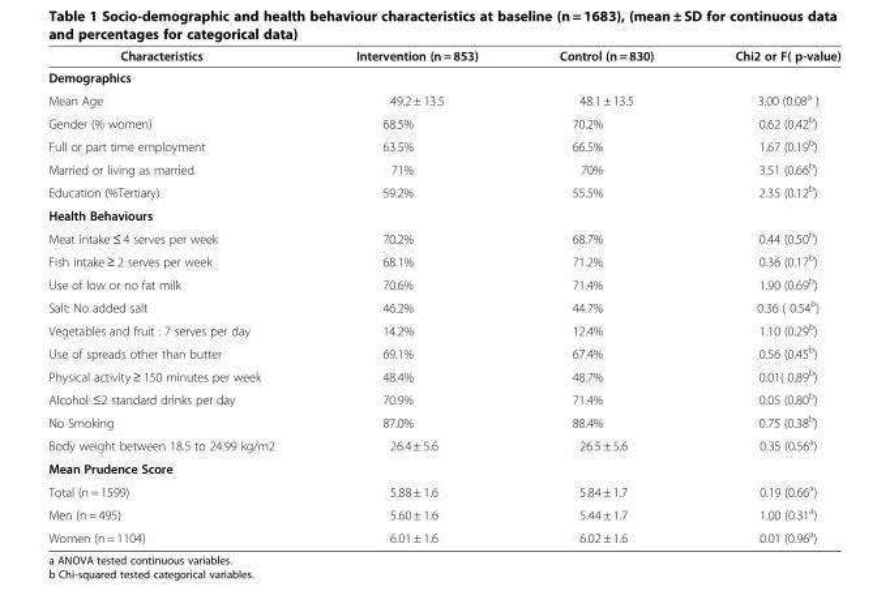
<table><thead><tr><td>Characteristics</td><td>Intervention (n = 853)</td><td>Control (n = 830)</td><td>Chi2 or F( p-value)</td></tr></thead><tbody><tr><td colspan="4">Demographics</td></tr><tr><td>Mean Age</td><td>49.2 ± 13.5</td><td>48.1 ± 13.5</td><td>3.00 (0.08<sup>a</sup> )</td></tr><tr><td>Gender (% women)</td><td>68.5%</td><td>70.2%</td><td>0.62 (0.42<sup>b</sup>)</td></tr><tr><td>Full or part time employment</td><td>63.5%</td><td>66.5%</td><td>1.67 (0.19<sup>b</sup>)</td></tr><tr><td>Married or living as married</td><td>71%</td><td>70%</td><td>3.51 (0.66<sup>b</sup>)</td></tr><tr><td>Education (%Tertiary)</td><td>59.2%</td><td>55.5%</td><td>2.35 (0.12<sup>b</sup>)</td></tr><tr><td colspan="4">Health Behaviours</td></tr><tr><td>Meat intake ≤ 4 serves per week</td><td>70.2%</td><td>68.7%</td><td>0.44 (0.50<sup>b</sup>)</td></tr><tr><td>Fish intake ≥ 2 serves per week</td><td>68.1%</td><td>71.2%</td><td>0.36 (0.17<sup>b</sup>)</td></tr><tr><td>Use of low or no fat milk</td><td>70.6%</td><td>71.4%</td><td>1.90 (0.69<sup>b</sup>)</td></tr><tr><td>Salt: No added salt</td><td>46.2%</td><td>44.7%</td><td>0.36 ( 0.54<sup>b</sup>)</td></tr><tr><td>Vegetables and fruit : 7 serves per day</td><td>14.2%</td><td>12.4%</td><td>1.10 (0.29<sup>b</sup>)</td></tr><tr><td>Use of spreads other than butter</td><td>69.1%</td><td>67.4%</td><td>0.56 (0.45<sup>b</sup>)</td></tr><tr><td>Physical activity ≥ 150 minutes per week</td><td>48.4%</td><td>48.7%</td><td>0.01( 0.89<sup>b</sup>)</td></tr><tr><td>Alcohol ≤2 standard drinks per day</td><td>70.9%</td><td>71.4%</td><td>0.05 (0.80<sup>b</sup>)</td></tr><tr><td>No Smoking</td><td>87.0%</td><td>88.4%</td><td>0.75 (0.38<sup>b</sup>)</td></tr><tr><td>Body weight between 18.5 to 24.99 kg/m2</td><td>26.4 ± 5.6</td><td>26.5 ± 5.6</td><td>0.35 (0.56<sup>a</sup>)</td></tr><tr><td colspan="4">Mean Prudence Score</td></tr><tr><td>Total (n = 1599)</td><td>5.88 ± 1.6</td><td>5.84 ± 1.7</td><td>0.19 (0.66<sup>a</sup>)</td></tr><tr><td>Men (n = 495)</td><td>5.60 ± 1.6</td><td>5.44 ± 1.7</td><td>1.00 (0.31<sup>a</sup>)</td></tr><tr><td>Women (n = 1104)</td><td>6.01 ± 1.6</td><td>6.02 ± 1.6</td><td>0.01 (0.96<sup>a</sup>)</td></tr></tbody></table>